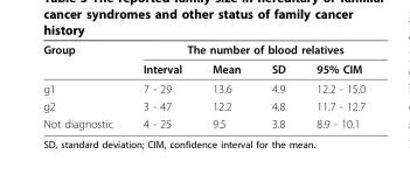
<table><thead><tr><td rowspan="2">Group</td><td colspan="4">The number of blood relatives</td></tr><tr><td>Interval</td><td>Mean</td><td>SD</td><td>95% CIM</td></tr></thead><tbody><tr><td>g1</td><td>7 - 29</td><td>13.6</td><td>4.9</td><td>12.2 - 15.0</td></tr><tr><td>g2</td><td>3 - 47</td><td>12.2</td><td>4.8</td><td>11.7 - 12.7</td></tr><tr><td>Not diagnostic</td><td>4 - 25</td><td>9.5</td><td>3.8</td><td>8.9 - 10.1</td></tr></tbody></table>